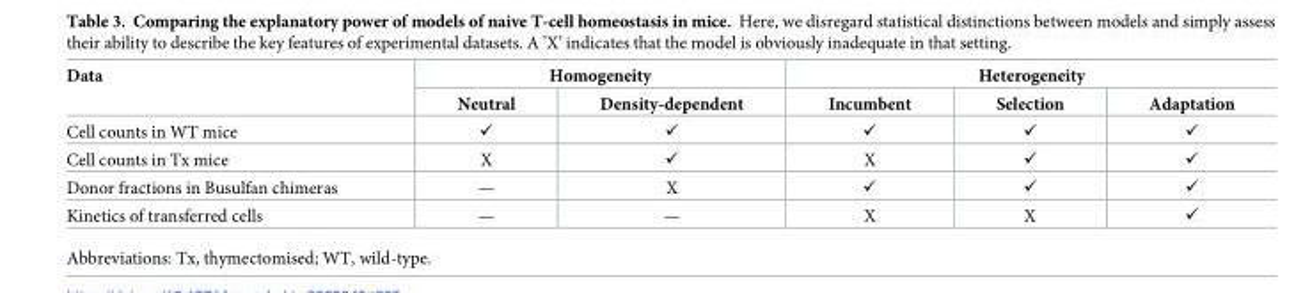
<table><thead><tr><td rowspan="2">Data</td><td colspan="2">Homogeneity</td><td colspan="3">Heterogeneity</td></tr><tr><td>Neutral</td><td>Density-dependent</td><td>Incumbent</td><td>Selection</td><td>Adaptation</td></tr></thead><tbody><tr><td>Cell counts in WT mice</td><td>✓</td><td>✓</td><td>✓</td><td>✓</td><td>✓</td></tr><tr><td>Cell counts in Tx mice</td><td>X</td><td>✓</td><td>X</td><td>✓</td><td>✓</td></tr><tr><td>Donor fractions in Busulfan chimeras</td><td>—</td><td>X</td><td>✓</td><td>✓</td><td>✓</td></tr><tr><td>Kinetics of transferred cells</td><td>—</td><td>—</td><td>X</td><td>X</td><td>✓</td></tr></tbody></table>